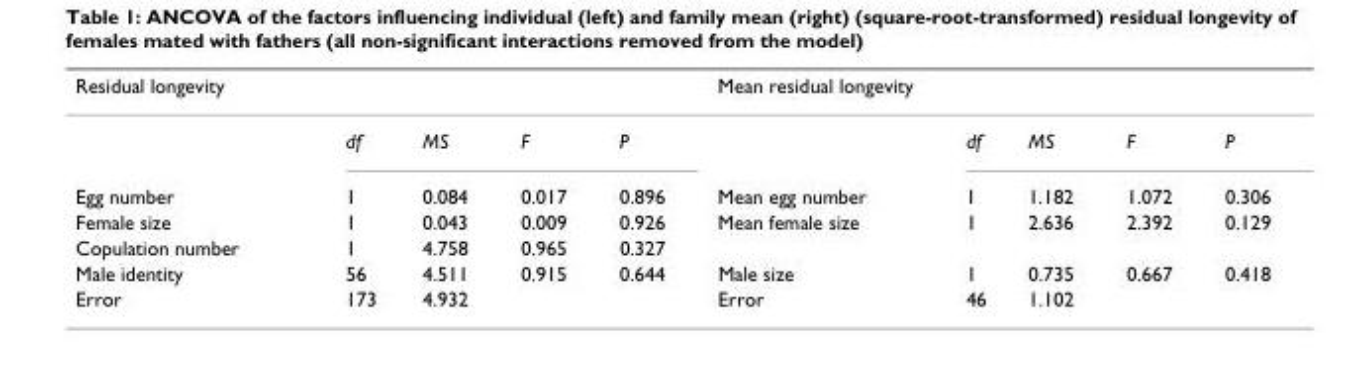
<table><thead><tr><td colspan="5">Residual longevity</td><td colspan="5">Mean residual longevity</td></tr><tr><td></td><td>df</td><td>MS</td><td>F</td><td>P</td><td></td><td>df</td><td>MS</td><td>F</td><td>P</td></tr></thead><tbody><tr><td>Egg number</td><td>1</td><td>0.084</td><td>0.017</td><td>0.896</td><td>Mean egg number</td><td>1</td><td>1.182</td><td>1.072</td><td>0.306</td></tr><tr><td>Female size</td><td>1</td><td>0.043</td><td>0.009</td><td>0.926</td><td>Mean female size</td><td>1</td><td>2.636</td><td>2.392</td><td>0.129</td></tr><tr><td>Copulation number</td><td>1</td><td>4.758</td><td>0.965</td><td>0.327</td><td></td><td></td><td></td><td></td><td></td></tr><tr><td>Male identity</td><td>56</td><td>4.511</td><td>0.915</td><td>0.644</td><td>Male size</td><td>1</td><td>0.735</td><td>0.667</td><td>0.418</td></tr><tr><td>Error</td><td>173</td><td>4.932</td><td></td><td></td><td>Error</td><td>46</td><td>1.102</td><td></td><td></td></tr></tbody></table>